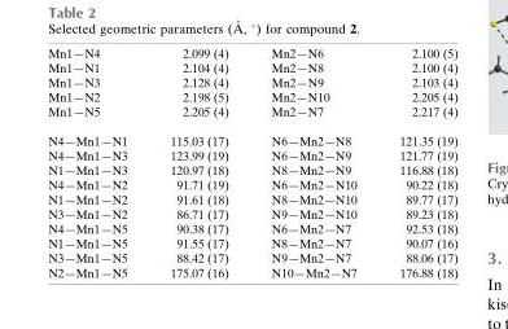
<table><tbody><tr><td>Mn1—N4</td><td>2.099 (4)</td><td>Mn2—N6</td><td>2.100 (5)</td></tr><tr><td>Mn1—N1</td><td>2.104 (4)</td><td>Mn2—N8</td><td>2.100 (4)</td></tr><tr><td>Mn1—N3</td><td>2.128 (4)</td><td>Mn2—N9</td><td>2.103 (4)</td></tr><tr><td>Mn1—N2</td><td>2.198 (5)</td><td>Mn2—N10</td><td>2.205 (4)</td></tr><tr><td>Mn1—N5</td><td>2.205 (4)</td><td>Mn2—N7</td><td>2.217 (4)</td></tr><tr><td>N4—Mn1—N1</td><td>115.03 (17)</td><td>N6—Mn2—N8</td><td>121.35 (19)</td></tr><tr><td>N4—Mn1—N3</td><td>123.99 (19)</td><td>N6—Mn2—N9</td><td>121.77 (19)</td></tr><tr><td>N1—Mn1—N3</td><td>120.97 (18)</td><td>N8—Mn2—N9</td><td>116.88 (18)</td></tr><tr><td>N4—Mn1—N2</td><td>91.71 (19)</td><td>N6—Mn2—N10</td><td>90.22 (18)</td></tr><tr><td>N1—Mn1—N2</td><td>91.61 (18)</td><td>N8—Mn2—N10</td><td>89.77 (17)</td></tr><tr><td>N3—Mn1—N2</td><td>86.71 (17)</td><td>N9—Mn2—N10</td><td>89.23 (18)</td></tr><tr><td>N4—Mn1—N5</td><td>90.38 (17)</td><td>N6—Mn2—N7</td><td>92.53 (18)</td></tr><tr><td>N1—Mn1—N5</td><td>91.55 (17)</td><td>N8—Mn2—N7</td><td>90.07 (16)</td></tr><tr><td>N3—Mn1—N5</td><td>88.42 (17)</td><td>N9—Mn2—N7</td><td>88.06 (17)</td></tr><tr><td>N2—Mn1—N5</td><td>175.07 (16)</td><td>N10—Mn2—N7</td><td>176.88 (18)</td></tr></tbody></table>